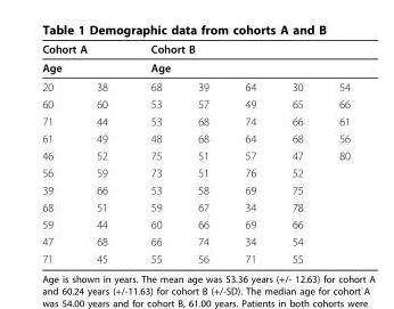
<table><thead><tr><td rowspan="2" colspan="2">Cohort A Age</td><td rowspan="2" colspan="5">Cohort B Age</td></tr><tr></tr><tr><td>20</td><td>38</td><td>68</td><td>39</td><td>64</td><td>30</td><td>54</td></tr></thead><tbody><tr><td>60</td><td>60</td><td>53</td><td>57</td><td>49</td><td>65</td><td>66</td></tr><tr><td>71</td><td>44</td><td>53</td><td>68</td><td>74</td><td>66</td><td>61</td></tr><tr><td>61</td><td>49</td><td>48</td><td>68</td><td>64</td><td>68</td><td>56</td></tr><tr><td>46</td><td>52</td><td>75</td><td>51</td><td>57</td><td>47</td><td>80</td></tr><tr><td>56</td><td>59</td><td>73</td><td>51</td><td>76</td><td>52</td><td></td></tr><tr><td>39</td><td>66</td><td>53</td><td>58</td><td>69</td><td>75</td><td></td></tr><tr><td>68</td><td>51</td><td>59</td><td>67</td><td>34</td><td>78</td><td></td></tr><tr><td>59</td><td>44</td><td>60</td><td>66</td><td>69</td><td>66</td><td></td></tr><tr><td>47</td><td>68</td><td>66</td><td>74</td><td>34</td><td>54</td><td></td></tr><tr><td>71</td><td>45</td><td>55</td><td>56</td><td>71</td><td>55</td><td></td></tr></tbody></table>